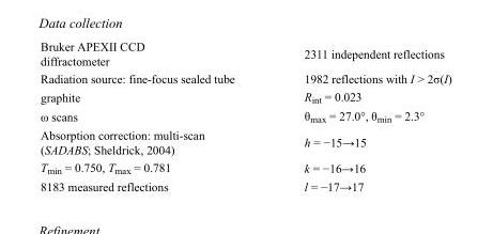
<table><tbody><tr><td>Bruker APEXII CCD diffractometer</td><td>2311 independent reflections</td></tr><tr><td>Radiation source: fine-focus sealed tube</td><td>1982 reflections with I &gt; 2σ(I)</td></tr><tr><td>graphite</td><td>R<sub>int</sub> = 0.023</td></tr><tr><td>ω scans</td><td>θ<sub>max</sub> = 27.0°, θ<sub>min</sub> = 2.3°</td></tr><tr><td>Absorption correction: multi-scan (SADABS; Sheldrick, 2004)</td><td>h = −15→15</td></tr><tr><td>T<sub>min</sub> = 0.750, T<sub>max</sub> = 0.781</td><td>k = −16→16</td></tr><tr><td>8183 measured reflections</td><td>l = −17→17</td></tr></tbody></table>